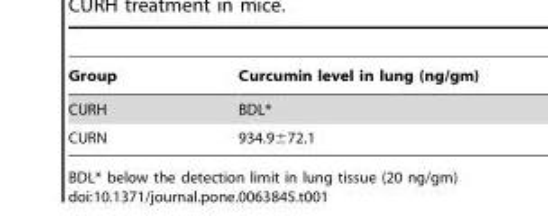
<table><thead><tr><td>Group</td><td>Curcumin level in lung (ng/gm)</td></tr></thead><tbody><tr><td>CURH</td><td>BDL*</td></tr><tr><td>CURN</td><td>934.9±72.1</td></tr></tbody></table>